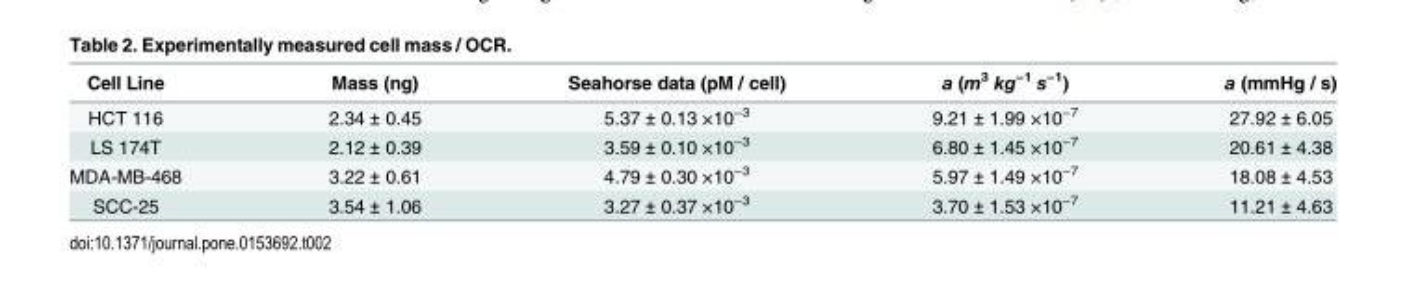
<table><thead><tr><td>Cell Line</td><td>Mass (ng)</td><td>Seahorse data (pM / cell)</td><td>a (m<sup>3</sup> kg<sup>−1</sup> s<sup>−1</sup>)</td><td>a (mmHg / s)</td></tr></thead><tbody><tr><td>HCT 116</td><td>2.34 ± 0.45</td><td>5.37 ± 0.13 ×10<sup>−3</sup></td><td>9.21 ± 1.99 ×10<sup>−7</sup></td><td>27.92 ± 6.05</td></tr><tr><td>LS 174T</td><td>2.12 ± 0.39</td><td>3.59 ± 0.10 ×10<sup>−3</sup></td><td>6.80 ± 1.45 ×10<sup>−7</sup></td><td>20.61 ± 4.38</td></tr><tr><td>MDA-MB-468</td><td>3.22 ± 0.61</td><td>4.79 ± 0.30 ×10<sup>−3</sup></td><td>5.97 ± 1.49 ×10<sup>−7</sup></td><td>18.08 ± 4.53</td></tr><tr><td>SCC-25</td><td>3.54 ± 1.06</td><td>3.27 ± 0.37 ×10<sup>−3</sup></td><td>3.70 ± 1.53 ×10<sup>−7</sup></td><td>11.21 ± 4.63</td></tr></tbody></table>